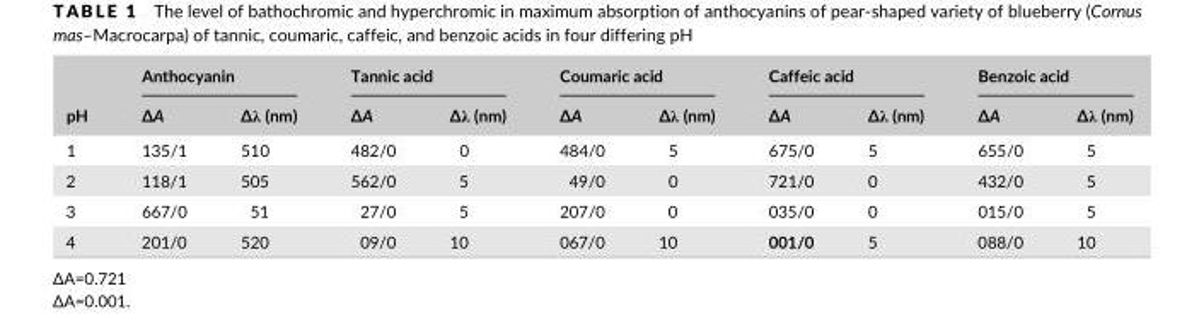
<table><thead><tr><td rowspan="2">pH</td><td colspan="2">Anthocyanin</td><td colspan="2">Tannic acid</td><td colspan="2">Coumaric acid</td><td colspan="2">Caffeic acid</td><td colspan="2">Benzoic acid</td></tr><tr><td>∆A</td><td>∆λ (nm)</td><td>∆A</td><td>∆λ (nm)</td><td>∆A</td><td>∆λ (nm)</td><td>∆A</td><td>∆λ (nm)</td><td>∆A</td><td>∆λ (nm)</td></tr></thead><tbody><tr><td>1</td><td>135/1</td><td>510</td><td>482/0</td><td>0</td><td>484/0</td><td>5</td><td>675/0</td><td>5</td><td>655/0</td><td>5</td></tr><tr><td>2</td><td>118/1</td><td>505</td><td>562/0</td><td>5</td><td>49/0</td><td>0</td><td>721/0</td><td>0</td><td>432/0</td><td>5</td></tr><tr><td>3</td><td>667/0</td><td>51</td><td>27/0</td><td>5</td><td>207/0</td><td>0</td><td>035/0</td><td>0</td><td>015/0</td><td>5</td></tr><tr><td>4</td><td>201/0</td><td>520</td><td>09/0</td><td>10</td><td>067/0</td><td>10</td><td>001/0</td><td>5</td><td>088/0</td><td>10</td></tr></tbody></table>